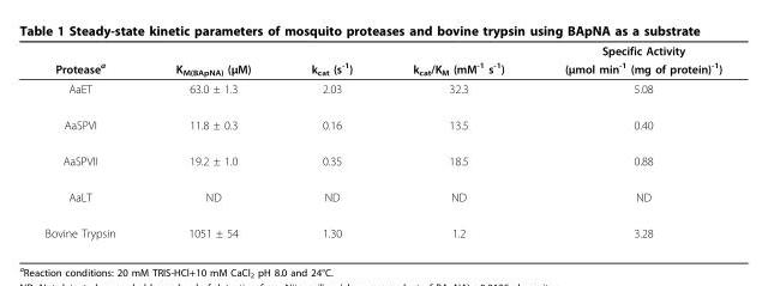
<table><thead><tr><td rowspan="2">Protease<sup>a</sup></td><td rowspan="2">K<sub>M(BApNA)</sub> (μM)</td><td rowspan="2">k<sub>cat</sub> (s<sup>-1</sup>)</td><td rowspan="2">k<sub>cat</sub>/K<sub>M</sub> (mM<sup>-1</sup> s<sup>-1</sup>)</td><td rowspan="2">Specific Activity (μmol min<sup>-1</sup> (mg of protein)<sup>-1</sup>)</td></tr><tr></tr></thead><tbody><tr><td>AaET</td><td>63.0 ± 1.3</td><td>2.03</td><td>32.3</td><td>5.08</td></tr><tr><td>AaSPVI</td><td>11.8 ± 0.3</td><td>0.16</td><td>13.5</td><td>0.40</td></tr><tr><td>AaSPVII</td><td>19.2 ± 1.0</td><td>0.35</td><td>18.5</td><td>0.88</td></tr><tr><td>AaLT</td><td>ND</td><td>ND</td><td>ND</td><td>ND</td></tr><tr><td>Bovine Trypsin</td><td>1051 ± 54</td><td>1.30</td><td>1.2</td><td>3.28</td></tr></tbody></table>